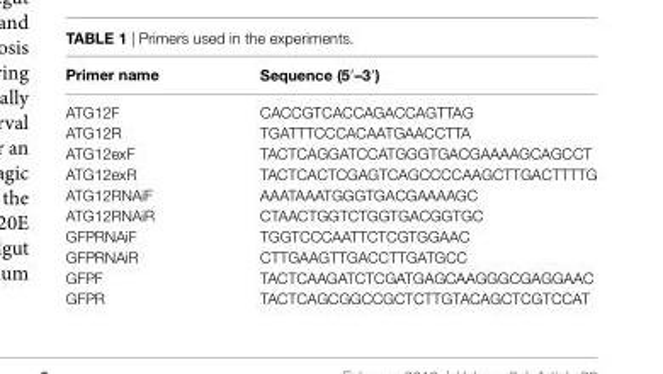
<table><thead><tr><td>Primer name</td><td>sequence (5′–3′)</td></tr></thead><tbody><tr><td>ATG12F</td><td>CACCGTCACCAGACCAGTTAG</td></tr><tr><td>ATG12R</td><td>TGATTTCCCACAATGAACCTTA</td></tr><tr><td>ATG12exF</td><td>TACTCAGGATCCATGGGTGACGAAAAGCAGCCT</td></tr><tr><td>ATG12exR</td><td>TACTCACTCGAGTCAGCCCCAAGCTTGACTTTTG</td></tr><tr><td>ATG12RNAiF</td><td>AAATAAATGGGTGACGAAAAGC</td></tr><tr><td>ATG12RNAiR</td><td>CTAACTGGTCTGGTGACGGTGC</td></tr><tr><td>GFPRNAiF</td><td>TGGTCCCAATTCTCGTGGAAC</td></tr><tr><td>GFPRNAiR</td><td>CTTGAAGTTGACCTTGATGCC</td></tr><tr><td>GFPF</td><td>TACTCAAGATCTCGATGAGCAAGGGCGAGGAAC</td></tr><tr><td>GFPR</td><td>TACTCAGCGGCCGCTCTTGTACAGCTCGTCCAT</td></tr></tbody></table>